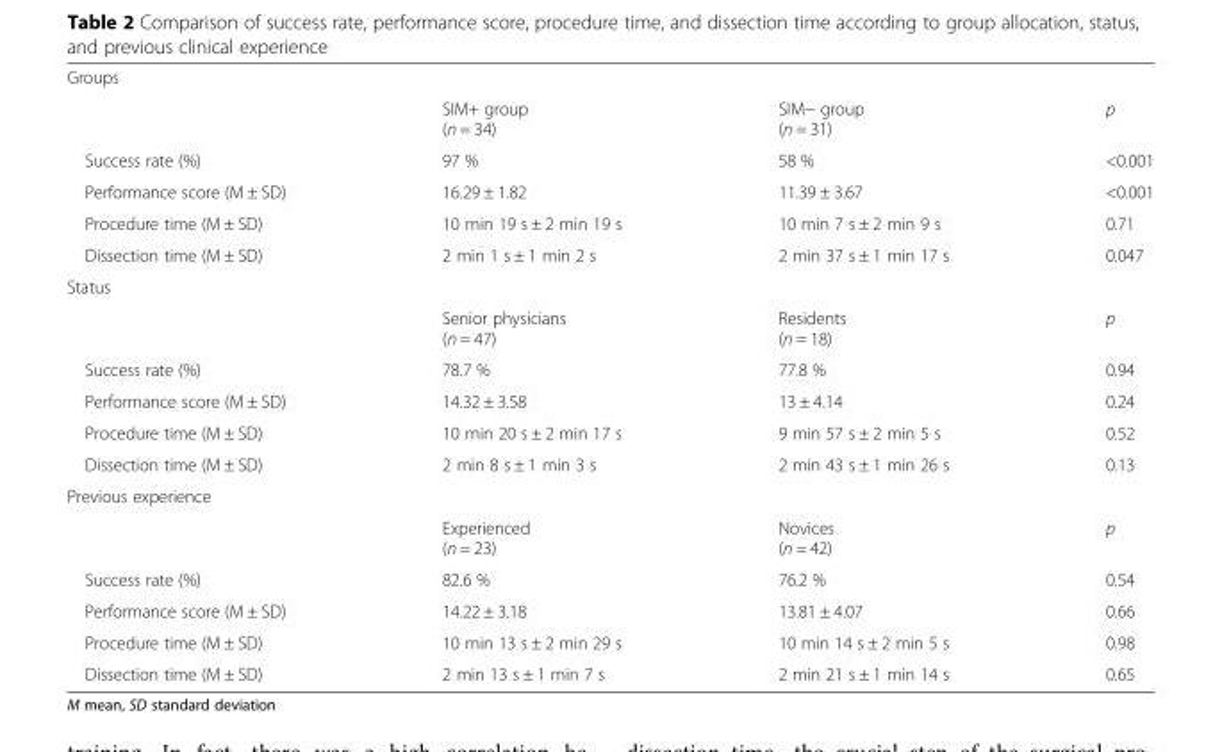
<table><tbody><tr><td colspan="4">Groups</td></tr><tr><td></td><td>SIM+ group (n = 34)</td><td>SIM− group (n = 31)</td><td>p</td></tr><tr><td>Success rate (%)</td><td>97 %</td><td>58 %</td><td>&lt;0.001</td></tr><tr><td>Performance score (M ± SD)</td><td>16.29 ± 1.82</td><td>11.39 ± 3.67</td><td>&lt;0.001</td></tr><tr><td>Procedure time (M ± SD)</td><td>10 min 19 s ± 2 min 19 s</td><td>10 min 7 s ± 2 min 9 s</td><td>0.71</td></tr><tr><td>Dissection time (M ± SD)</td><td>2 min 1 s ± 1 min 2 s</td><td>2 min 37 s ± 1 min 17 s</td><td>0.047</td></tr><tr><td colspan="4">Status</td></tr><tr><td></td><td>Senior physicians (n = 47)</td><td>Residents (n = 18)</td><td>p</td></tr><tr><td>Success rate (%)</td><td>78.7 %</td><td>77.8 %</td><td>0.94</td></tr><tr><td>Performance score (M ± SD)</td><td>14.32 ± 3.58</td><td>13 ± 4.14</td><td>0.24</td></tr><tr><td>Procedure time (M ± SD)</td><td>10 min 20 s ± 2 min 17 s</td><td>9 min 57 s ± 2 min 5 s</td><td>0.52</td></tr><tr><td>Dissection time (M ± SD)</td><td>2 min 8 s ± 1 min 3 s</td><td>2 min 43 s ± 1 min 26 s</td><td>0.13</td></tr><tr><td colspan="4">Previous experience</td></tr><tr><td></td><td>Experienced (n = 23)</td><td>Novices (n = 42)</td><td>p</td></tr><tr><td>Success rate (%)</td><td>82.6 %</td><td>76.2 %</td><td>0.54</td></tr><tr><td>Performance score (M ± SD)</td><td>14.22 ± 3.18</td><td>13.81 ± 4.07</td><td>0.66</td></tr><tr><td>Procedure time (M ± SD)</td><td>10 min 13 s ± 2 min 29 s</td><td>10 min 14 s ± 2 min 5 s</td><td>0.98</td></tr><tr><td>Dissection time (M ± SD)</td><td>2 min 13 s ± 1 min 7 s</td><td>2 min 21 s ± 1 min 14 s</td><td>0.65</td></tr></tbody></table>